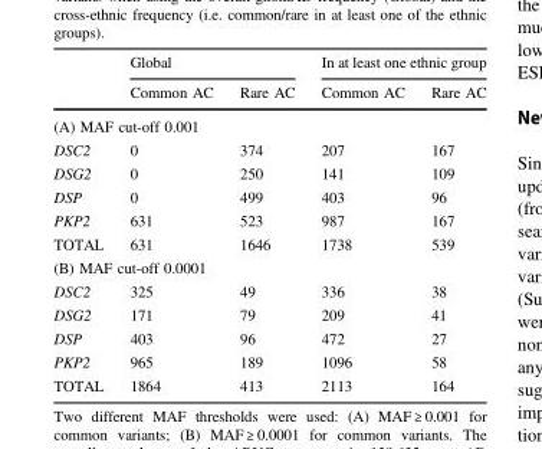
<table><thead><tr><td rowspan="2"></td><td colspan="2">Global</td><td colspan="2">In at least one ethnic group</td></tr><tr><td>Common AC</td><td>Rare AC</td><td>Common AC</td><td>Rare AC</td></tr></thead><tbody><tr><td colspan="5">(A) MAF cut-off 0.001</td></tr><tr><td>DSC2</td><td>0</td><td>374</td><td>207</td><td>167</td></tr><tr><td>DSG2</td><td>0</td><td>250</td><td>141</td><td>109</td></tr><tr><td>DSP</td><td>0</td><td>499</td><td>403</td><td>96</td></tr><tr><td>PKP2</td><td>631</td><td>523</td><td>987</td><td>167</td></tr><tr><td>TOTAL</td><td>631</td><td>1646</td><td>1738</td><td>539</td></tr><tr><td colspan="5">(B) MAF cut-off 0.0001</td></tr><tr><td>DSC2</td><td>325</td><td>49</td><td>336</td><td>38</td></tr><tr><td>DSG2</td><td>171</td><td>79</td><td>209</td><td>41</td></tr><tr><td>DSP</td><td>403</td><td>96</td><td>472</td><td>27</td></tr><tr><td>PKP2</td><td>965</td><td>189</td><td>1096</td><td>58</td></tr><tr><td>TOTAL</td><td>1864</td><td>413</td><td>2113</td><td>164</td></tr></tbody></table>